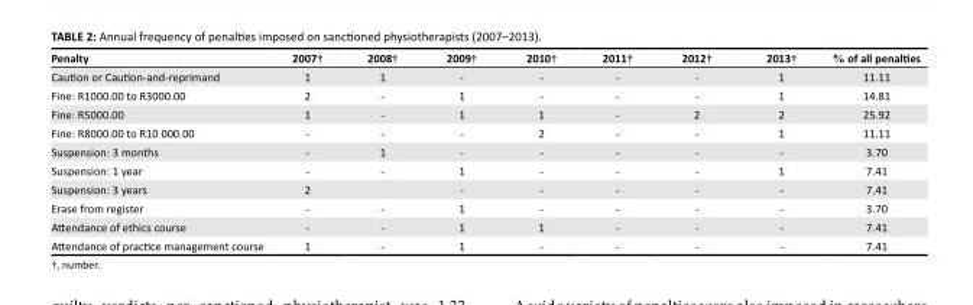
<table><thead><tr><td>Penalty</td><td>2007†</td><td>2008†</td><td>2009†</td><td>2010†</td><td>2011†</td><td>2012†</td><td>2013†</td><td>% of all penalties</td></tr></thead><tbody><tr><td>Caution or Caution-and-reprimand</td><td>1</td><td>1</td><td>-</td><td>-</td><td>-</td><td>-</td><td>1</td><td>11.11</td></tr><tr><td>Fine: R1000.00 to R3000.00</td><td>2</td><td>-</td><td>1</td><td>-</td><td>-</td><td>-</td><td>1</td><td>14.81</td></tr><tr><td>Fine: R5000.00</td><td>1</td><td>-</td><td>1</td><td>1</td><td>-</td><td>2</td><td>2</td><td>25.92</td></tr><tr><td>Fine: R8000.00 to R10 000.00</td><td>-</td><td>-</td><td>-</td><td>2</td><td>-</td><td>-</td><td>1</td><td>11.11</td></tr><tr><td>Suspension: 3 months</td><td>-</td><td>1</td><td>-</td><td>-</td><td>-</td><td>-</td><td>-</td><td>3.70</td></tr><tr><td>Suspension: 1 year</td><td>-</td><td>-</td><td>1</td><td>-</td><td>-</td><td>-</td><td>1</td><td>7.41</td></tr><tr><td>Suspension: 3 years</td><td>2</td><td></td><td>-</td><td>-</td><td>-</td><td>-</td><td>-</td><td>7.41</td></tr><tr><td>Erase from register</td><td>-</td><td>-</td><td>1</td><td>-</td><td>-</td><td>-</td><td>-</td><td>3.70</td></tr><tr><td>Attendance of ethics course</td><td>-</td><td>-</td><td>1</td><td>1</td><td>-</td><td>-</td><td>-</td><td>7.41</td></tr><tr><td>Attendance of practice management course</td><td>1</td><td>-</td><td>1</td><td>-</td><td>-</td><td>-</td><td>-</td><td>7.41</td></tr></tbody></table>